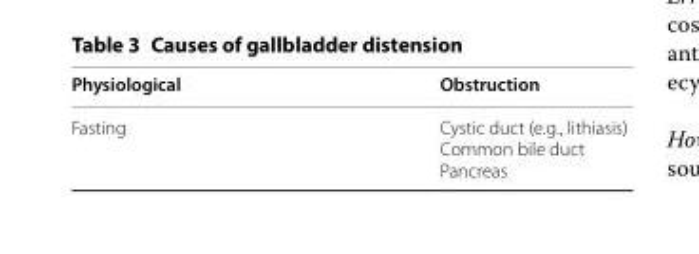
<table><thead><tr><td>Physiological</td><td>Obstruction</td></tr></thead><tbody><tr><td>Fasting</td><td>Cystic duct (e.g., lithiasis) Common bile duct Pancreas</td></tr></tbody></table>